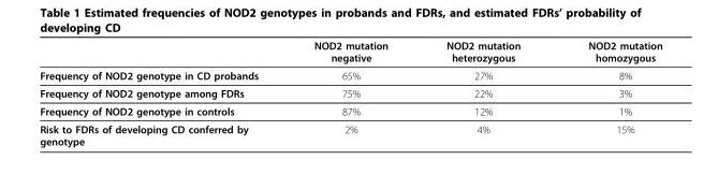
<table><thead><tr><td></td><td>NOD2 mutation negative</td><td>NOD2 mutation heterozygous</td><td>NOD2 mutation homozygous</td></tr></thead><tbody><tr><td>Frequency of NOD2 genotype in CD probands</td><td>65%</td><td>27%</td><td>8%</td></tr><tr><td>Frequency of NOD2 genotype among FDRs</td><td>75%</td><td>22%</td><td>3%</td></tr><tr><td>Frequency of NOD2 genotype in controls</td><td>87%</td><td>12%</td><td>1%</td></tr><tr><td>Risk to FDRs of developing CD conferred by genotype</td><td>2%</td><td>4%</td><td>15%</td></tr></tbody></table>